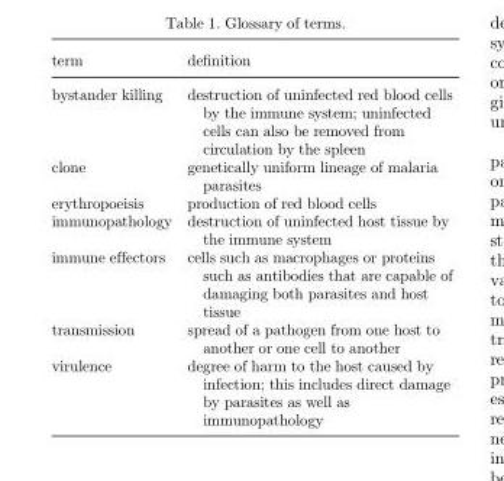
<table><thead><tr><td>term</td><td>definition</td></tr></thead><tbody><tr><td>bystander killing</td><td>destruction of uninfected red blood cells by the immune system; uninfected cells can also be removed from circulation by the spleen</td></tr><tr><td>clone</td><td>genetically uniform lineage of malaria parasites</td></tr><tr><td>erythropoeisis</td><td>production of red blood cells</td></tr><tr><td>immunopathology</td><td>destruction of uninfected host tissue by the immune system</td></tr><tr><td>immune effectors</td><td>cells such as macrophages or proteins such as antibodies that are capable of damaging both parasites and host tissue</td></tr><tr><td>transmission</td><td>spread of a pathogen from one host to another or one cell to another</td></tr><tr><td>virulence</td><td>degree of harm to the host caused by infection; this includes direct damage by parasites as well as immunopathology</td></tr></tbody></table>